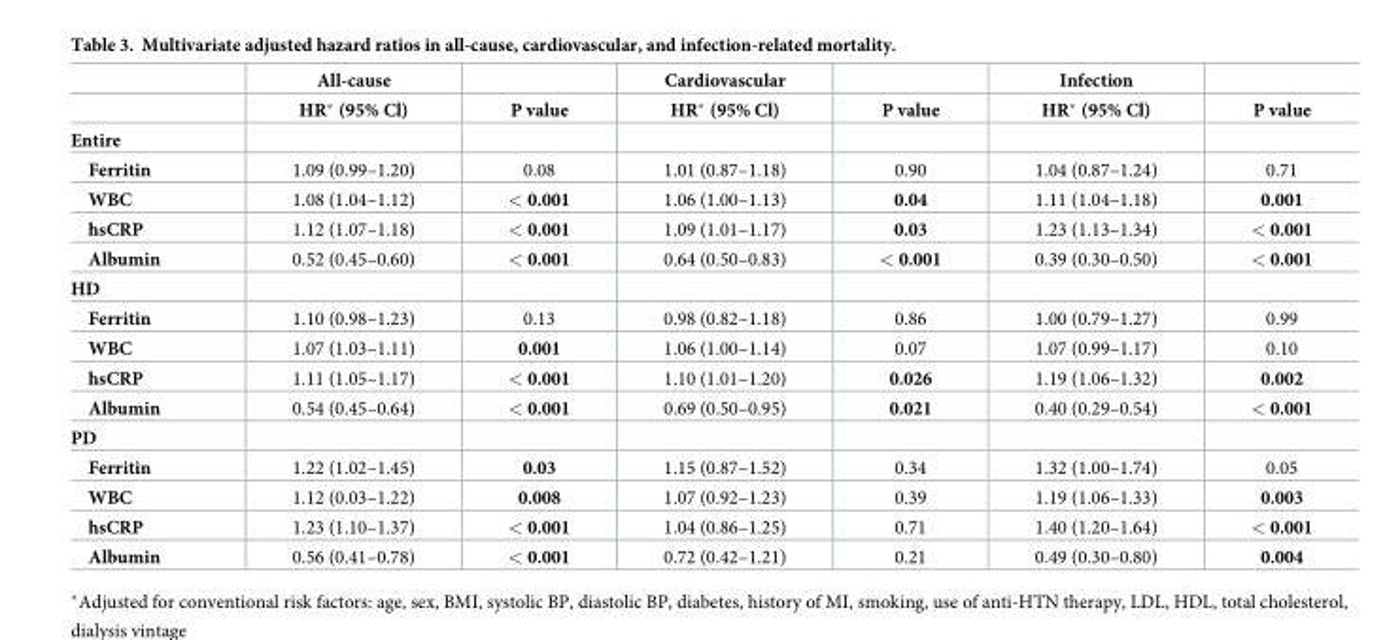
<table><thead><tr><td rowspan="2"></td><td rowspan="2">All-cause HR* (95% Cl)</td><td rowspan="2">P value</td><td rowspan="2">Cardiovascular HR* (95% Cl)</td><td rowspan="2">P value</td><td rowspan="2">Infection HR* (95% Cl)</td><td rowspan="2">P value</td></tr><tr></tr></thead><tbody><tr><td colspan="7">Entire</td></tr><tr><td>Ferritin</td><td>1.09 (0.99–1.20)</td><td>0.08</td><td>1.01 (0.87–1.18)</td><td>0.90</td><td>1.04 (0.87–1.24)</td><td>0.71</td></tr><tr><td>WBC</td><td>1.08 (1.04–1.12)</td><td>&lt; 0.001</td><td>1.06 (1.00–1.13)</td><td>0.04</td><td>1.11 (1.04–1.18)</td><td>0.001</td></tr><tr><td>hsCRP</td><td>1.12 (1.07–1.18)</td><td>&lt; 0.001</td><td>1.09 (1.01–1.17)</td><td>0.03</td><td>1.23 (1.13–1.34)</td><td>&lt; 0.001</td></tr><tr><td>Albumin</td><td>0.52 (0.45–0.60)</td><td>&lt; 0.001</td><td>0.64 (0.50–0.83)</td><td>&lt; 0.001</td><td>0.39 (0.30–0.50)</td><td>&lt; 0.001</td></tr><tr><td colspan="7">HD</td></tr><tr><td>Ferritin</td><td>1.10 (0.98–1.23)</td><td>0.13</td><td>0.98 (0.82–1.18)</td><td>0.86</td><td>1.00 (0.79–1.27)</td><td>0.99</td></tr><tr><td>WBC</td><td>1.07 (1.03–1.11)</td><td>0.001</td><td>1.06 (1.00–1.14)</td><td>0.07</td><td>1.07 (0.99–1.17)</td><td>0.10</td></tr><tr><td>hsCRP</td><td>1.11 (1.05–1.17)</td><td>&lt; 0.001</td><td>1.10 (1.01–1.20)</td><td>0.026</td><td>1.19 (1.06–1.32)</td><td>0.002</td></tr><tr><td>Albumin</td><td>0.54 (0.45–0.64)</td><td>&lt; 0.001</td><td>0.69 (0.50–0.95)</td><td>0.021</td><td>0.40 (0.29–0.54)</td><td>&lt; 0.001</td></tr><tr><td colspan="7">PD</td></tr><tr><td>Ferritin</td><td>1.22 (1.02–1.45)</td><td>0.03</td><td>1.15 (0.87–1.52)</td><td>0.34</td><td>1.32 (1.00–1.74)</td><td>0.05</td></tr><tr><td>WBC</td><td>1.12 (0.03–1.22)</td><td>0.008</td><td>1.07 (0.92–1.23)</td><td>0.39</td><td>1.19 (1.06–1.33)</td><td>0.003</td></tr><tr><td>hsCRP</td><td>1.23 (1.10–1.37)</td><td>&lt; 0.001</td><td>1.04 (0.86–1.25)</td><td>0.71</td><td>1.40 (1.20–1.64)</td><td>&lt; 0.001</td></tr><tr><td>Albumin</td><td>0.56 (0.41–0.78)</td><td>&lt; 0.001</td><td>0.72 (0.42–1.21)</td><td>0.21</td><td>0.49 (0.30–0.80)</td><td>0.004</td></tr></tbody></table>